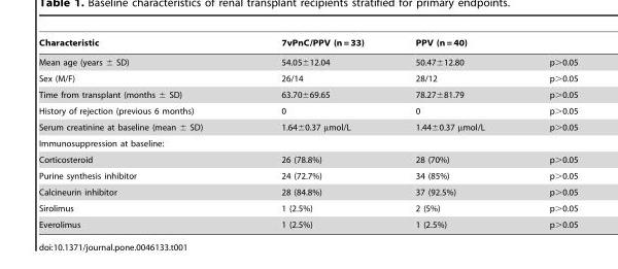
<table><thead><tr><td>Characteristic</td><td>7vPnC/PPV (n = 33)</td><td>PPV (n = 40)</td><td></td></tr></thead><tbody><tr><td>Mean age (years ± SD)</td><td>54.05±12.04</td><td>50.47±12.80</td><td>p&gt;0.05</td></tr><tr><td>Sex (M/F)</td><td>26/14</td><td>28/12</td><td>p&gt;0.05</td></tr><tr><td>Time from transplant (months ± SD)</td><td>63.70±69.65</td><td>78.27±81.79</td><td>p&gt;0.05</td></tr><tr><td>History of rejection (previous 6 months)</td><td>0</td><td>0</td><td>p&gt;0.05</td></tr><tr><td>Serum creatinine at baseline (mean ± SD)</td><td>1.64±0.37 µmol/L</td><td>1.44±0.37 µmol/L</td><td>p&gt;0.05</td></tr><tr><td colspan="4">Immunosuppression at baseline:</td></tr><tr><td>Corticosteroid</td><td>26 (78.8%)</td><td>28 (70%)</td><td>p&gt;0.05</td></tr><tr><td>Purine synthesis inhibitor</td><td>24 (72.7%)</td><td>34 (85%)</td><td>p&gt;0.05</td></tr><tr><td>Calcineurin inhibitor</td><td>28 (84.8%)</td><td>37 (92.5%)</td><td>p&gt;0.05</td></tr><tr><td>Sirolimus</td><td>1 (2.5%)</td><td>2 (5%)</td><td>p&gt;0.05</td></tr><tr><td>Everolimus</td><td>1 (2.5%)</td><td>1 (2.5%)</td><td>p&gt;0.05</td></tr></tbody></table>